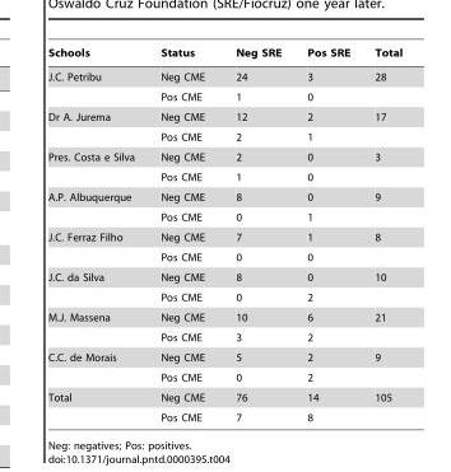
<table><thead><tr><td>Schools</td><td>Status</td><td>Neg SRE</td><td>Pos SRE</td><td>Total</td></tr></thead><tbody><tr><td rowspan="2">J.C. Petribu</td><td>Neg CME</td><td>24</td><td>3</td><td>28</td></tr><tr><td>Pos CME</td><td>1</td><td>0</td><td></td></tr><tr><td rowspan="2">Dr A. Jurema</td><td>Neg CME</td><td>12</td><td>2</td><td>17</td></tr><tr><td>Pos CME</td><td>2</td><td>1</td><td></td></tr><tr><td rowspan="2">Pres. Costa e Silva</td><td>Neg CME</td><td>2</td><td>0</td><td>3</td></tr><tr><td>Pos CME</td><td>1</td><td>0</td><td></td></tr><tr><td rowspan="2">A.P. Albuquerque</td><td>Neg CME</td><td>8</td><td>0</td><td>9</td></tr><tr><td>Pos CME</td><td>0</td><td>1</td><td></td></tr><tr><td rowspan="2">J.C. Ferraz Filho</td><td>Neg CME</td><td>7</td><td>1</td><td>8</td></tr><tr><td>Pos CME</td><td>0</td><td>0</td><td></td></tr><tr><td rowspan="2">J.C. da Silva</td><td>Neg CME</td><td>8</td><td>0</td><td>10</td></tr><tr><td>Pos CME</td><td>0</td><td>2</td><td></td></tr><tr><td rowspan="2">M.J. Massena</td><td>Neg CME</td><td>10</td><td>6</td><td>21</td></tr><tr><td>Pos CME</td><td>3</td><td>2</td><td></td></tr><tr><td rowspan="2">C.C. de Morais</td><td>Neg CME</td><td>5</td><td>2</td><td>9</td></tr><tr><td>Pos CME</td><td>0</td><td>2</td><td></td></tr><tr><td rowspan="2">Total</td><td>Neg CME</td><td>76</td><td>14</td><td>105</td></tr><tr><td>Pos CME</td><td>7</td><td>8</td><td></td></tr></tbody></table>